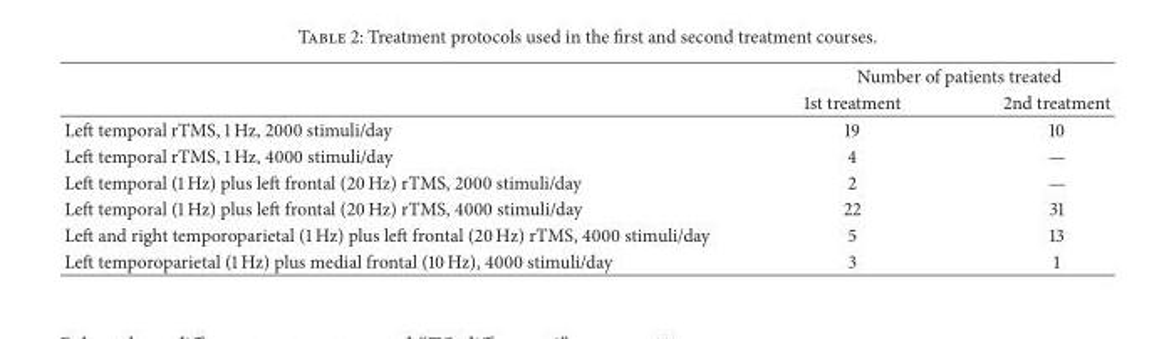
<table><thead><tr><td rowspan="2"></td><td colspan="2">Number of patients treated</td></tr><tr><td>1st treatment</td><td>2nd treatment</td></tr></thead><tbody><tr><td>Left temporal rTMS, 1 Hz, 2000 stimuli/day</td><td>19</td><td>10</td></tr><tr><td>Left temporal rTMS, 1 Hz, 4000 stimuli/day</td><td>4</td><td>—</td></tr><tr><td>Left temporal (1 Hz) plus left frontal (20 Hz) rTMS, 2000 stimuli/day</td><td>2</td><td>—</td></tr><tr><td>Left temporal (1 Hz) plus left frontal (20 Hz) rTMS, 4000 stimuli/day</td><td>22</td><td>31</td></tr><tr><td>Left and right temporoparietal (1 Hz) plus left frontal (20 Hz) rTMS, 4000 stimuli/day</td><td>5</td><td>13</td></tr><tr><td>Left temporoparietal (1 Hz) plus medial frontal (10 Hz), 4000 stimuli/day</td><td>3</td><td>1</td></tr></tbody></table>